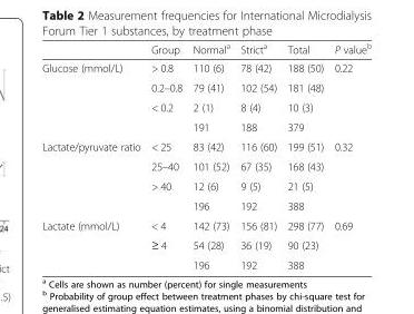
<table><thead><tr><td></td><td>Group</td><td>Normal<sup>a</sup></td><td>Strict<sup>a</sup></td><td>Total</td><td>P value<sup>b</sup></td></tr></thead><tbody><tr><td rowspan="4">Glucose (mmol/L)</td><td>&gt; 0.8</td><td>110 (6)</td><td>78 (42)</td><td>188 (50)</td><td rowspan="3">0.22</td></tr><tr><td>0.2–0.8</td><td>79 (41)</td><td>102 (54)</td><td>181 (48)</td></tr><tr><td>&lt; 0.2</td><td>2 (1)</td><td>8 (4)</td><td>10 (3)</td></tr><tr><td></td><td>191</td><td>188</td><td>379</td><td></td></tr><tr><td rowspan="4">Lactate/pyruvate ratio</td><td>&lt; 25</td><td>83 (42)</td><td>116 (60)</td><td>199 (51)</td><td rowspan="3">0.32</td></tr><tr><td>25–40</td><td>101 (52)</td><td>67 (35)</td><td>168 (43)</td></tr><tr><td>&gt; 40</td><td>12 (6)</td><td>9 (5)</td><td>21 (5)</td></tr><tr><td></td><td>196</td><td>192</td><td>388</td><td></td></tr><tr><td rowspan="3">Lactate (mmol/L)</td><td>&lt; 4</td><td>142 (73)</td><td>156 (81)</td><td>298 (77)</td><td rowspan="2">0.69</td></tr><tr><td>≥ 4</td><td>54 (28)</td><td>36 (19)</td><td>90 (23)</td></tr><tr><td></td><td>196</td><td>192</td><td>388</td><td></td></tr></tbody></table>